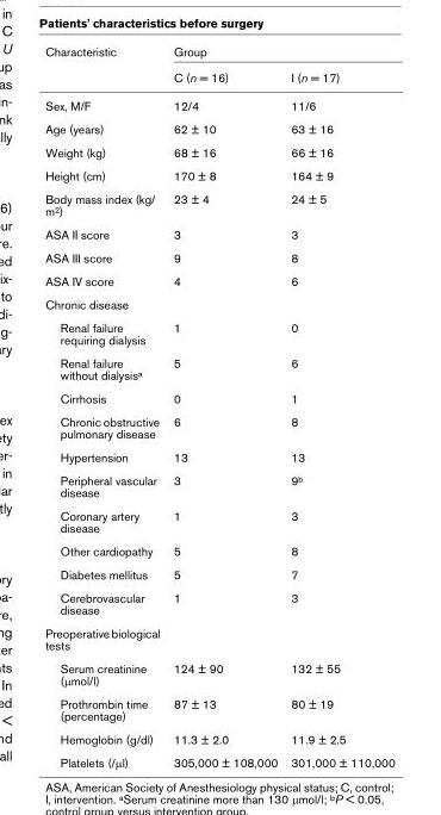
<table><thead><tr><td rowspan="2">Characteristic</td><td colspan="2">Group</td></tr><tr><td>C (n = 16)</td><td>I (n = 17)</td></tr></thead><tbody><tr><td>Sex, M/F</td><td>12/4</td><td>11/6</td></tr><tr><td>Age (years)</td><td>62 ± 10</td><td>63 ± 16</td></tr><tr><td>Weight (kg)</td><td>68 ± 16</td><td>66 ± 16</td></tr><tr><td>Height (cm)</td><td>170 ± 8</td><td>164 ± 9</td></tr><tr><td>Body mass index (kg/ m<sup>2</sup>)</td><td>23 ± 4</td><td>24 ± 5</td></tr><tr><td>ASA II score</td><td>3</td><td>3</td></tr><tr><td>ASA III score</td><td>9</td><td>8</td></tr><tr><td>ASA IV score</td><td>4</td><td>6</td></tr><tr><td colspan="3">Chronic disease</td></tr><tr><td>Renal failure requiring dialysis</td><td>1</td><td>0</td></tr><tr><td>Renal failure without dialysis<sup>a</sup></td><td>5</td><td>6</td></tr><tr><td>Cirrhosis</td><td>0</td><td>1</td></tr><tr><td>Chronic obstructive pulmonary disease</td><td>6</td><td>8</td></tr><tr><td>Hypertension</td><td>13</td><td>13</td></tr><tr><td>Peripheral vascular disease</td><td>3</td><td>9<sup>b</sup></td></tr><tr><td>Coronary artery disease</td><td>1</td><td>3</td></tr><tr><td>Other cardiopathy</td><td>5</td><td>8</td></tr><tr><td>Diabetes mellitus</td><td>5</td><td>7</td></tr><tr><td>Cerebrovascular disease</td><td>1</td><td>3</td></tr><tr><td colspan="3">Preoperative biological tests</td></tr><tr><td>Serum creatinine (μmol/l)</td><td>124 ± 90</td><td>132 ± 55</td></tr><tr><td>Prothrombin time (percentage)</td><td>87 ± 13</td><td>80 ± 19</td></tr><tr><td>Hemoglobin (g/dl)</td><td>11.3 ± 2.0</td><td>11.9 ± 2.5</td></tr><tr><td>Platelets (/μl)</td><td>305,000 ± 108,000</td><td>301,000 ± 110,000</td></tr></tbody></table>